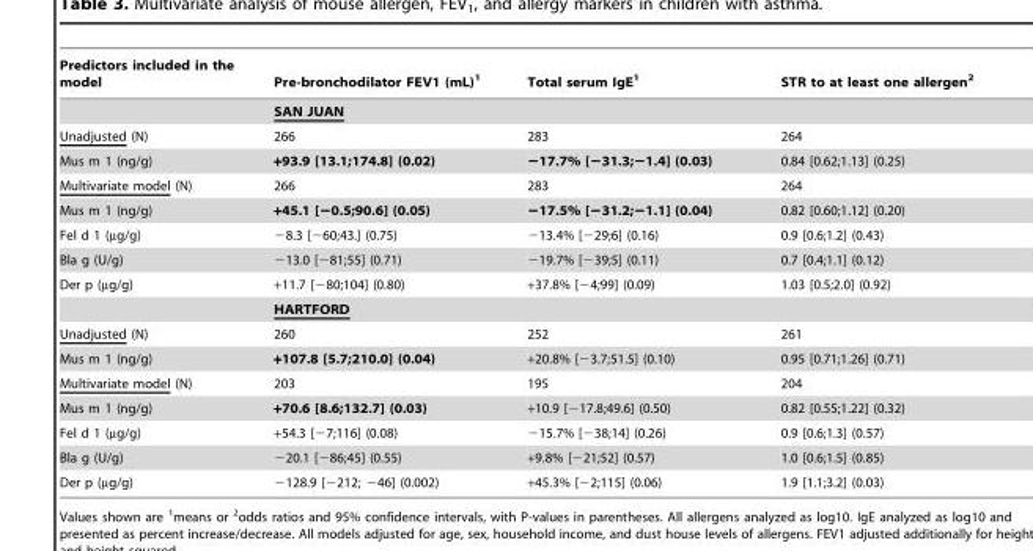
<table><thead><tr><td>Predictors included in the model</td><td>Pre-bronchodilator FEV1 (mL)<sup>1</sup></td><td>Total serum IgE<sup>1</sup></td><td>STR to at least one allergen<sup>2</sup></td></tr></thead><tbody><tr><td></td><td colspan="3">SAN JUAN</td></tr><tr><td>Unadjusted (N)</td><td>266</td><td>283</td><td>264</td></tr><tr><td>Mus m 1 (ng/g)</td><td>+93.9 [13.1;174.8] (0.02)</td><td>−17.7% [−31.3;−1.4] (0.03)</td><td>0.84 [0.62;1.13] (0.25)</td></tr><tr><td>Multivariate model (N)</td><td>266</td><td>283</td><td>264</td></tr><tr><td>Mus m 1 (ng/g)</td><td>+45.1 [−0.5;90.6] (0.05)</td><td>−17.5% [−31.2;−1.1] (0.04)</td><td>0.82 [0.60;1.12] (0.20)</td></tr><tr><td>Fel d 1 (µg/g)</td><td>−8.3 [−60;43.] (0.75)</td><td>−13.4% [−29;6] (0.16)</td><td>0.9 [0.6;1.2] (0.43)</td></tr><tr><td>Bla g (U/g)</td><td>−13.0 [−81;55] (0.71)</td><td>−19.7% [−39;5] (0.11)</td><td>0.7 [0.4;1.1] (0.12)</td></tr><tr><td rowspan="2">Der p (µg/g)</td><td>+11.7 [−80;104] (0.80)</td><td>+37.8% [−4;99] (0.09)</td><td>1.03 [0.5;2.0] (0.92)</td></tr><tr><td colspan="3">HARTFORD</td></tr><tr><td>Unadjusted (N)</td><td>260</td><td>252</td><td>261</td></tr><tr><td>Mus m 1 (ng/g)</td><td>+107.8 [5.7;210.0] (0.04)</td><td>+20.8% [−3.7;51.5] (0.10)</td><td>0.95 [0.71;1.26] (0.71)</td></tr><tr><td>Multivariate model (N)</td><td>203</td><td>195</td><td>204</td></tr><tr><td>Mus m 1 (ng/g)</td><td>+70.6 [8.6;132.7] (0.03)</td><td>+10.9 [−17.8;49.6] (0.50)</td><td>0.82 [0.55;1.22] (0.32)</td></tr><tr><td>Fel d 1 (µg/g)</td><td>+54.3 [−7;116] (0.08)</td><td>−15.7% [−38;14] (0.26)</td><td>0.9 [0.6;1.3] (0.57)</td></tr><tr><td>Bla g (U/g)</td><td>−20.1 [−86;45] (0.55)</td><td>+9.8% [−21;52] (0.57)</td><td>1.0 [0.6;1.5] (0.85)</td></tr><tr><td>Der p (µg/g)</td><td>−128.9 [−212; −46] (0.002)</td><td>+45.3% [−2;115] (0.06)</td><td>1.9 [1.1;3.2] (0.03)</td></tr></tbody></table>